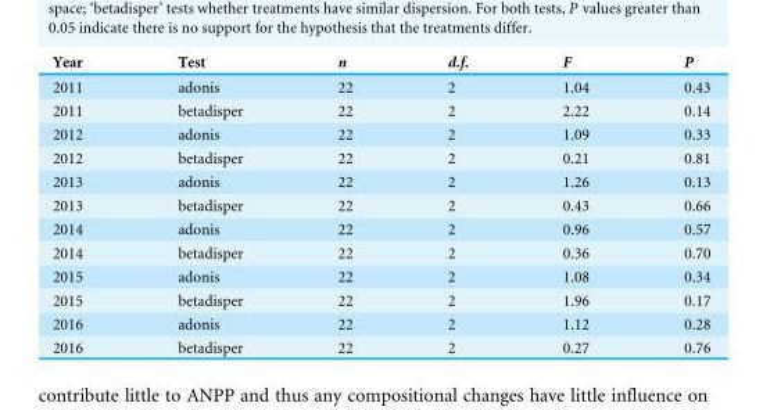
<table><thead><tr><td>Year</td><td>Test</td><td>n</td><td>d.f.</td><td>F</td><td>P</td></tr></thead><tbody><tr><td>2011</td><td>adonis</td><td>22</td><td>2</td><td>1.04</td><td>0.43</td></tr><tr><td>2011</td><td>betadisper</td><td>22</td><td>2</td><td>2.22</td><td>0.14</td></tr><tr><td>2012</td><td>adonis</td><td>22</td><td>2</td><td>1.09</td><td>0.33</td></tr><tr><td>2012</td><td>betadisper</td><td>22</td><td>2</td><td>0.21</td><td>0.81</td></tr><tr><td>2013</td><td>adonis</td><td>22</td><td>2</td><td>1.26</td><td>0.13</td></tr><tr><td>2013</td><td>betadisper</td><td>22</td><td>2</td><td>0.43</td><td>0.66</td></tr><tr><td>2014</td><td>adonis</td><td>22</td><td>2</td><td>0.96</td><td>0.57</td></tr><tr><td>2014</td><td>betadisper</td><td>22</td><td>2</td><td>0.36</td><td>0.70</td></tr><tr><td>2015</td><td>adonis</td><td>22</td><td>2</td><td>1.08</td><td>0.34</td></tr><tr><td>2015</td><td>betadisper</td><td>22</td><td>2</td><td>1.96</td><td>0.17</td></tr><tr><td>2016</td><td>adonis</td><td>22</td><td>2</td><td>1.12</td><td>0.28</td></tr><tr><td>2016</td><td>betadisper</td><td>22</td><td>2</td><td>0.27</td><td>0.76</td></tr></tbody></table>